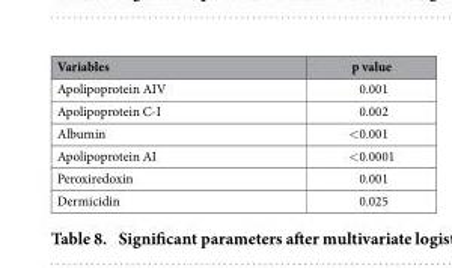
<table><thead><tr><td>Variables</td><td>p value</td></tr></thead><tbody><tr><td>Apolipoprotein AIV</td><td>0.001</td></tr><tr><td>Apolipoprotein C-I</td><td>0.002</td></tr><tr><td>Albumin</td><td>&lt; 0.001</td></tr><tr><td>Apolipoprotein AI</td><td>&lt; 0.0001</td></tr><tr><td>Peroxiredoxin</td><td>0.001</td></tr><tr><td>Dermicidin</td><td>0.025</td></tr></tbody></table>